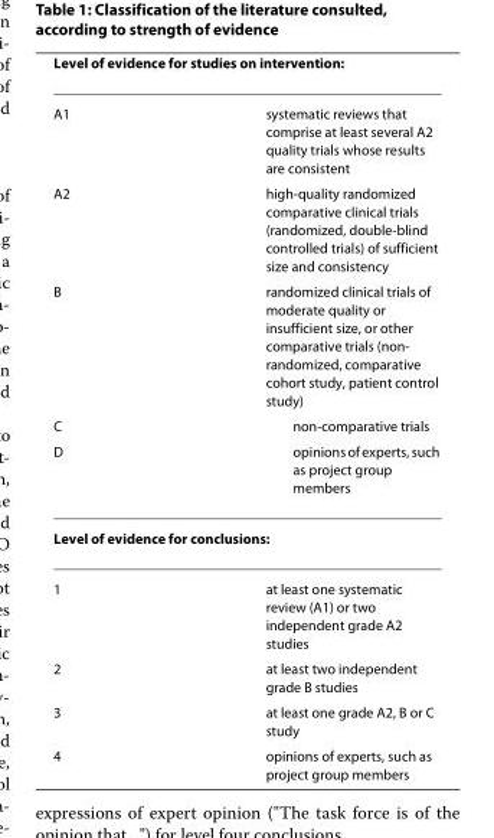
<table><thead><tr><td colspan="2">Level of evidence for studies on intervention:</td></tr><tr><td>A1</td><td>systematic reviews that comprise at least several A2 quality trials whose results are consistent</td></tr></thead><tbody><tr><td>A2</td><td>high-quality randomized comparative clinical trials (randomized, double-blind controlled trials) of sufficient size and consistency</td></tr><tr><td>B</td><td>randomized clinical trials of moderate quality or insufficient size, or other comparative trials (non- randomized, comparative cohort study, patient control study)</td></tr><tr><td>C</td><td>non-comparative trials</td></tr><tr><td>D</td><td>opinions of experts, such as project group members</td></tr><tr><td colspan="2">Level of evidence for conclusions:</td></tr><tr><td>1</td><td>at least one systematic review (A1) or two independent grade A2 studies</td></tr><tr><td>2</td><td>at least two independent grade B studies</td></tr><tr><td>3</td><td>at least one grade A2, B or C study</td></tr><tr><td>4</td><td>opinions of experts, such as project group members</td></tr></tbody></table>